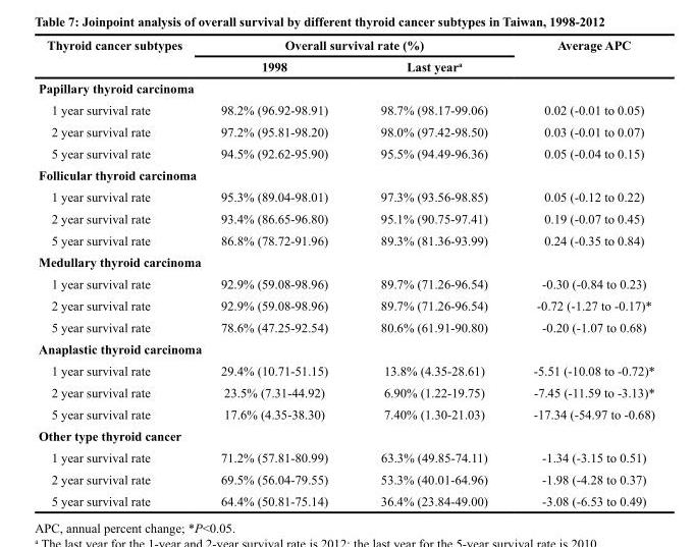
<table><thead><tr><td rowspan="2">Thyroid cancer subtypes</td><td colspan="2">Overall survival rate (%)</td><td rowspan="2">Average APC</td></tr><tr><td>1998</td><td>Last year<sup>a</sup></td></tr></thead><tbody><tr><td colspan="4">Papillary thyroid carcinoma</td></tr><tr><td>1 year survival rate</td><td>98.2% (96.92-98.91)</td><td>98.7% (98.17-99.06)</td><td>0.02 (-0.01 to 0.05)</td></tr><tr><td>2 year survival rate</td><td>97.2% (95.81-98.20)</td><td>98.0% (97.42-98.50)</td><td>0.03 (-0.01 to 0.07)</td></tr><tr><td>5 year survival rate</td><td>94.5% (92.62-95.90)</td><td>95.5% (94.49-96.36)</td><td>0.05 (-0.04 to 0.15)</td></tr><tr><td colspan="4">Follicular thyroid carcinoma</td></tr><tr><td>1 year survival rate</td><td>95.3% (89.04-98.01)</td><td>97.3% (93.56-98.85)</td><td>0.05 (-0.12 to 0.22)</td></tr><tr><td>2 year survival rate</td><td>93.4% (86.65-96.80)</td><td>95.1% (90.75-97.41)</td><td>0.19 (-0.07 to 0.45)</td></tr><tr><td>5 year survival rate</td><td>86.8% (78.72-91.96)</td><td>89.3% (81.36-93.99)</td><td>0.24 (-0.35 to 0.84)</td></tr><tr><td colspan="4">Medullary thyroid carcinoma</td></tr><tr><td>1 year survival rate</td><td>92.9% (59.08-98.96)</td><td>89.7% (71.26-96.54)</td><td>-0.30 (-0.84 to 0.23)</td></tr><tr><td>2 year survival rate</td><td>92.9% (59.08-98.96)</td><td>89.7% (71.26-96.54)</td><td>-0.72 (-1.27 to -0.17)*</td></tr><tr><td>5 year survival rate</td><td>78.6% (47.25-92.54)</td><td>80.6% (61.91-90.80)</td><td>-0.20 (-1.07 to 0.68)</td></tr><tr><td colspan="4">Anaplastic thyroid carcinoma</td></tr><tr><td>1 year survival rate</td><td>29.4% (10.71-51.15)</td><td>13.8% (4.35-28.61)</td><td>-5.51 (-10.08 to -0.72)*</td></tr><tr><td>2 year survival rate</td><td>23.5% (7.31-44.92)</td><td>6.90% (1.22-19.75)</td><td>-7.45 (-11.59 to -3.13)*</td></tr><tr><td>5 year survival rate</td><td>17.6% (4.35-38.30)</td><td>7.40% (1.30-21.03)</td><td>-17.34 (-54.97 to -0.68)</td></tr><tr><td colspan="4">Other type thyroid cancer</td></tr><tr><td>1 year survival rate</td><td>71.2% (57.81-80.99)</td><td>63.3% (49.85-74.11)</td><td>-1.34 (-3.15 to 0.51)</td></tr><tr><td>2 year survival rate</td><td>69.5% (56.04-79.55)</td><td>53.3% (40.01-64.96)</td><td>-1.98 (-4.28 to 0.37)</td></tr><tr><td>5 year survival rate</td><td>64.4% (50.81-75.14)</td><td>36.4% (23.84-49.00)</td><td>-3.08 (-6.53 to 0.49)</td></tr></tbody></table>